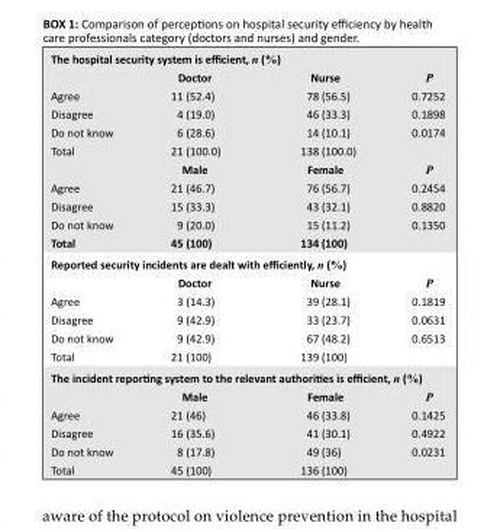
<table><thead><tr><td colspan="4">The hospital security system is efficient, n (%)</td></tr><tr><td></td><td>Doctor</td><td>Nurse</td><td>P</td></tr></thead><tbody><tr><td>Agree</td><td>11 (52.4)</td><td>78 (56.5)</td><td>0.7252</td></tr><tr><td>Disagree</td><td>4 (19.0)</td><td>46 (33.3)</td><td>0.1898</td></tr><tr><td>Do not know</td><td>6 (28.6)</td><td>14 (10.1)</td><td>0.0174</td></tr><tr><td rowspan="2">Total</td><td>21 (100.0)</td><td>138 (100.0)</td><td></td></tr><tr><td>Male</td><td>Female</td><td>P</td></tr><tr><td>Agree</td><td>21 (46.7)</td><td>76 (56.7)</td><td>0.2454</td></tr><tr><td>Disagree</td><td>15 (33.3)</td><td>43 (32.1)</td><td>0.8820</td></tr><tr><td>Do not know</td><td>9 (20.0)</td><td>15 (11.2)</td><td>0.1350</td></tr><tr><td>Total</td><td>45 (100)</td><td>134 (100)</td><td></td></tr><tr><td colspan="4">Reported security incidents are dealt with efficiently, n (%)</td></tr><tr><td></td><td>Doctor</td><td>Nurse</td><td>P</td></tr><tr><td>Agree</td><td>3 (14.3)</td><td>39 (28.1)</td><td>0.1819</td></tr><tr><td>Disagree</td><td>9 (42.9)</td><td>33 (23.7)</td><td>0.0631</td></tr><tr><td>Do not know</td><td>9 (42.9)</td><td>67 (48.2)</td><td>0.6513</td></tr><tr><td>Total</td><td>21 (100)</td><td>139 (100)</td><td></td></tr><tr><td colspan="4">The incident reporting system to the relevant authorities is efficient, n (%)</td></tr><tr><td></td><td>Male</td><td>Female</td><td>P</td></tr><tr><td>Agree</td><td>21 (46)</td><td>46 (33.8)</td><td>0.1425</td></tr><tr><td>Disagree</td><td>16 (35.6)</td><td>41 (30.1)</td><td>0.4922</td></tr><tr><td>Do not know</td><td>8 (17.8)</td><td>49 (36)</td><td>0.0231</td></tr><tr><td>Total</td><td>45 (100)</td><td>136 (100)</td><td></td></tr></tbody></table>